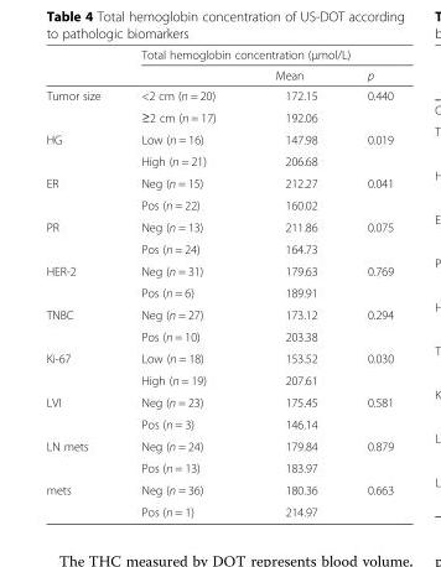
<table><thead><tr><td rowspan="2"></td><td colspan="3">Total hemoglobin concentration (μmol/L)</td></tr><tr><td></td><td>Mean</td><td>p</td></tr></thead><tbody><tr><td rowspan="2">Tumor size</td><td>&lt;2 cm (n = 20)</td><td>172.15</td><td>0.440</td></tr><tr><td>≥2 cm (n = 17)</td><td>192.06</td><td></td></tr><tr><td rowspan="2">HG</td><td>Low (n = 16)</td><td>147.98</td><td>0.019</td></tr><tr><td>High (n = 21)</td><td>206.68</td><td></td></tr><tr><td rowspan="2">ER</td><td>Neg (n = 15)</td><td>212.27</td><td>0.041</td></tr><tr><td>Pos (n = 22)</td><td>160.02</td><td></td></tr><tr><td rowspan="2">PR</td><td>Neg (n = 13)</td><td>211.86</td><td>0.075</td></tr><tr><td>Pos (n = 24)</td><td>164.73</td><td></td></tr><tr><td rowspan="2">HER-2</td><td>Neg (n = 31)</td><td>179.63</td><td>0.769</td></tr><tr><td>Pos (n = 6)</td><td>189.91</td><td></td></tr><tr><td rowspan="2">TNBC</td><td>Neg (n = 27)</td><td>173.12</td><td>0.294</td></tr><tr><td>Pos (n = 10)</td><td>203.38</td><td></td></tr><tr><td rowspan="2">Ki-67</td><td>Low (n = 18)</td><td>153.52</td><td>0.030</td></tr><tr><td>High (n = 19)</td><td>207.61</td><td></td></tr><tr><td rowspan="2">LVI</td><td>Neg (n = 23)</td><td>175.45</td><td>0.581</td></tr><tr><td>Pos (n = 3)</td><td>146.14</td><td></td></tr><tr><td rowspan="2">LN mets</td><td>Neg (n = 24)</td><td>179.84</td><td>0.879</td></tr><tr><td>Pos (n = 13)</td><td>183.97</td><td></td></tr><tr><td rowspan="2">mets</td><td>Neg (n = 36)</td><td>180.36</td><td>0.663</td></tr><tr><td>Pos (n = 1)</td><td>214.97</td><td></td></tr></tbody></table>